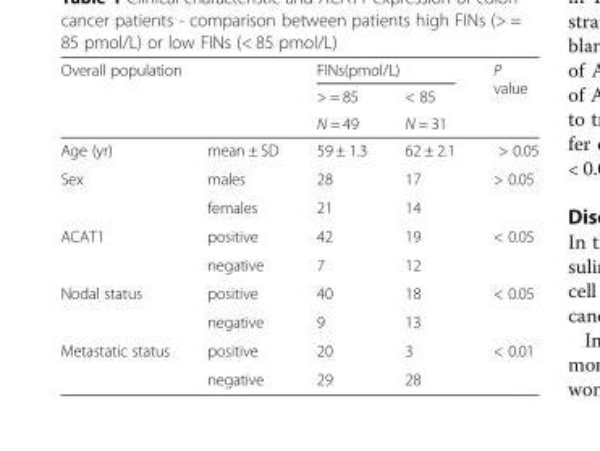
<table><thead><tr><td rowspan="3" colspan="2">Overall population</td><td colspan="2">FINs(pmol/L)</td><td rowspan="4">P value &gt; 0.05</td></tr><tr><td rowspan="3">&gt; = 85 N = 49 59 ± 1.3</td><td rowspan="3">&lt; 85 N = 31 62 ± 2.1</td></tr><tr></tr><tr><td>Age (yr)</td><td>mean ± SD</td></tr></thead><tbody><tr><td rowspan="2">Sex</td><td>males</td><td>28</td><td>17</td><td rowspan="2">&gt; 0.05</td></tr><tr><td>females</td><td>21</td><td>14</td></tr><tr><td rowspan="2">ACAT1</td><td>positive</td><td>42</td><td>19</td><td rowspan="2">&lt; 0.05</td></tr><tr><td>negative</td><td>7</td><td>12</td></tr><tr><td rowspan="2">Nodal status</td><td>positive</td><td>40</td><td>18</td><td rowspan="2">&lt; 0.05</td></tr><tr><td>negative</td><td>9</td><td>13</td></tr><tr><td rowspan="2">Metastatic status</td><td>positive</td><td>20</td><td>3</td><td rowspan="2">&lt; 0.01</td></tr><tr><td>negative</td><td>29</td><td>28</td></tr></tbody></table>